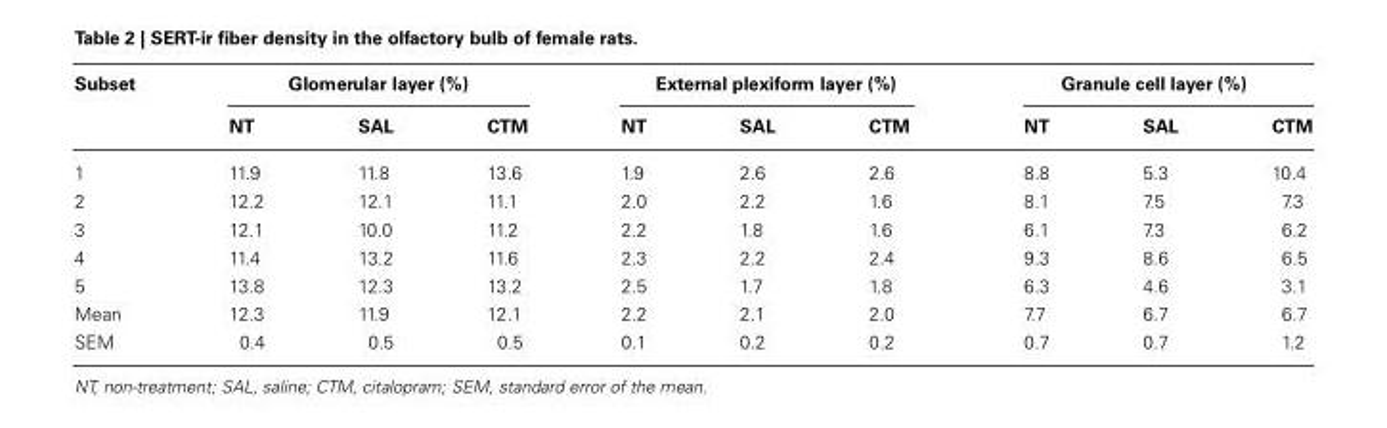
<table><thead><tr><td rowspan="2">Subset</td><td colspan="3">Glomerular layer (%)</td><td colspan="3">External plexiform layer (%)</td><td colspan="3">Granule cell layer (%)</td></tr><tr><td>NT</td><td>SAL</td><td>CTM</td><td>NT</td><td>SAL</td><td>CTM</td><td>NT</td><td>SAL</td><td>CTM</td></tr></thead><tbody><tr><td>1</td><td>11.9</td><td>11.8</td><td>13.6</td><td>1.9</td><td>2.6</td><td>2.6</td><td>8.8</td><td>5.3</td><td>10.4</td></tr><tr><td>2</td><td>12.2</td><td>12.1</td><td>11.1</td><td>2.0</td><td>2.2</td><td>1.6</td><td>8.1</td><td>7.5</td><td>7.3</td></tr><tr><td>3</td><td>12.1</td><td>10.0</td><td>11.2</td><td>2.2</td><td>1.8</td><td>1.6</td><td>6.1</td><td>7.3</td><td>6.2</td></tr><tr><td>4</td><td>11.4</td><td>13.2</td><td>11.6</td><td>2.3</td><td>2.2</td><td>2.4</td><td>9.3</td><td>8.6</td><td>6.5</td></tr><tr><td>5</td><td>13.8</td><td>12.3</td><td>13.2</td><td>2.5</td><td>1.7</td><td>1.8</td><td>6.3</td><td>4.6</td><td>3.1</td></tr><tr><td>Mean</td><td>12.3</td><td>11.9</td><td>12.1</td><td>2.2</td><td>2.1</td><td>2.0</td><td>7.7</td><td>6.7</td><td>6.7</td></tr><tr><td>SEM</td><td>0.4</td><td>0.5</td><td>0.5</td><td>0.1</td><td>0.2</td><td>0.2</td><td>0.7</td><td>0.7</td><td>1.2</td></tr></tbody></table>